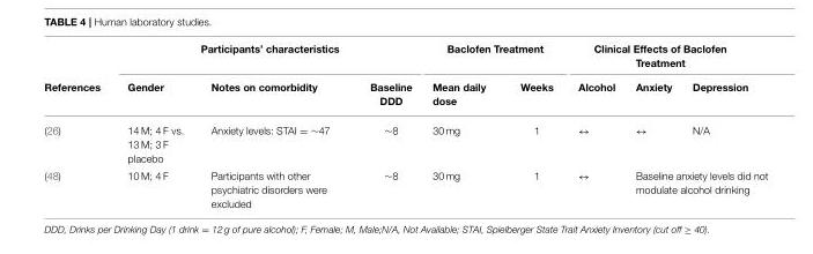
<table><thead><tr><td rowspan="2">References</td><td colspan="3">Participants’ characteristics</td><td colspan="2">Baclofen Treatment</td><td colspan="3">Clinical Effects of Baclofen Treatment</td></tr><tr><td>Gender</td><td>Notes on comorbidity</td><td>Baseline DDD</td><td>Mean daily dose</td><td>Weeks</td><td>Alcohol</td><td>Anxiety</td><td>Depression</td></tr></thead><tbody><tr><td>(26)</td><td>14 M; 4 F vs. 13 M; 3 F placebo</td><td>Anxiety levels: STAI = ∼47</td><td>∼8</td><td>30 mg</td><td>1</td><td>↔</td><td>↔</td><td>N/A</td></tr><tr><td>(48)</td><td>10 M; 4 F</td><td>Participants with other psychiatric disorders were excluded</td><td>∼8</td><td>30 mg</td><td>1</td><td>↔</td><td colspan="2">Baseline anxiety levels did not modulate alcohol drinking</td></tr></tbody></table>